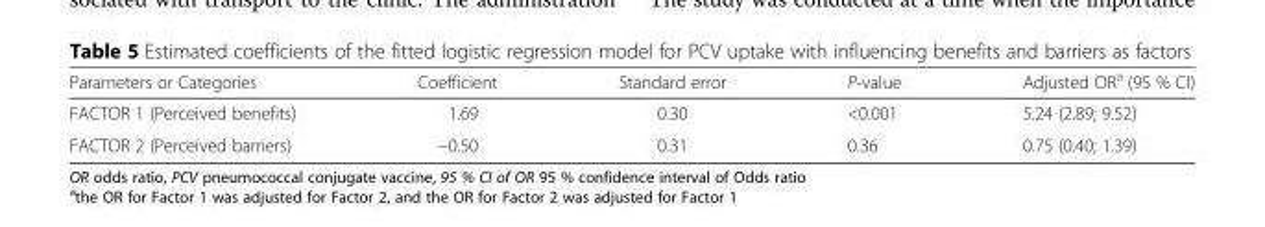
<table><thead><tr><td>Parameters or Categories</td><td>Coefficient</td><td>Standard error</td><td>P-value</td><td>Adjusted OR<sup>a</sup> (95 % CI)</td></tr></thead><tbody><tr><td>FACTOR 1 (Perceived benefits)</td><td>1.69</td><td>0.30</td><td>&lt;0.001</td><td>5.24 (2.89; 9.52)</td></tr><tr><td>FACTOR 2 (Perceived barriers)</td><td>−0.50</td><td>0.31</td><td>0.36</td><td>0.75 (0.40; 1.39)</td></tr></tbody></table>